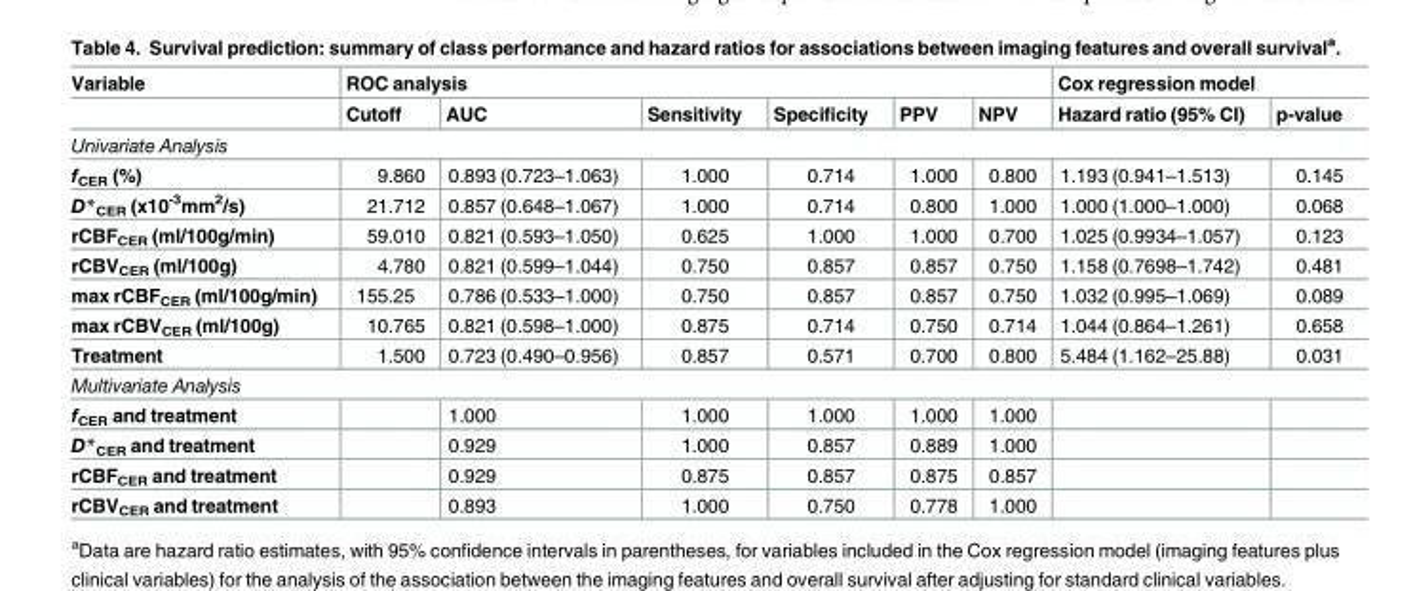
<table><thead><tr><td rowspan="2">Variable</td><td colspan="6">ROC analysis</td><td colspan="2">Cox regression model</td></tr><tr><td>Cutoff</td><td>AUC</td><td>Sensitivity</td><td>Specificity</td><td>PPV</td><td>NPV</td><td>Hazard ratio (95% CI)</td><td>p-value</td></tr></thead><tbody><tr><td colspan="9">Univariate Analysis</td></tr><tr><td>f<sub>CER</sub> (%)</td><td>9.860</td><td>0.893 (0.723–1.063)</td><td>1.000</td><td>0.714</td><td>1.000</td><td>0.800</td><td>1.193 (0.941–1.513)</td><td>0.145</td></tr><tr><td>D*<sub>CER</sub> (x10<sup>-3</sup>mm<sup>2</sup>/s)</td><td>21.712</td><td>0.857 (0.648–1.067)</td><td>1.000</td><td>0.714</td><td>0.800</td><td>1.000</td><td>1.000 (1.000–1.000)</td><td>0.068</td></tr><tr><td>rCBF<sub>CER</sub> (ml/100g/min)</td><td>59.010</td><td>0.821 (0.593–1.050)</td><td>0.625</td><td>1.000</td><td>1.000</td><td>0.700</td><td>1.025 (0.9934–1.057)</td><td>0.123</td></tr><tr><td>rCBV<sub>CER</sub> (ml/100g)</td><td>4.780</td><td>0.821 (0.599–1.044)</td><td>0.750</td><td>0.857</td><td>0.857</td><td>0.750</td><td>1.158 (0.7698–1.742)</td><td>0.481</td></tr><tr><td>max rCBF<sub>CER</sub> (ml/100g/min)</td><td>155.25</td><td>0.786 (0.533–1.000)</td><td>0.750</td><td>0.857</td><td>0.857</td><td>0.750</td><td>1.032 (0.995–1.069)</td><td>0.089</td></tr><tr><td>max rCBV<sub>CER</sub> (ml/100g)</td><td>10.765</td><td>0.821 (0.598–1.000)</td><td>0.875</td><td>0.714</td><td>0.750</td><td>0.714</td><td>1.044 (0.864–1.261)</td><td>0.658</td></tr><tr><td>Treatment</td><td>1.500</td><td>0.723 (0.490–0.956)</td><td>0.857</td><td>0.571</td><td>0.700</td><td>0.800</td><td>5.484 (1.162–25.88)</td><td>0.031</td></tr><tr><td colspan="9">Multivariate Analysis</td></tr><tr><td>f<sub>CER</sub> and treatment</td><td></td><td>1.000</td><td>1.000</td><td>1.000</td><td>1.000</td><td>1.000</td><td></td><td></td></tr><tr><td>D*<sub>CER</sub> and treatment</td><td></td><td>0.929</td><td>1.000</td><td>0.857</td><td>0.889</td><td>1.000</td><td></td><td></td></tr><tr><td>rCBF<sub>CER</sub> and treatment</td><td></td><td>0.929</td><td>0.875</td><td>0.857</td><td>0.875</td><td>0.857</td><td></td><td></td></tr><tr><td>rCBV<sub>CER</sub> and treatment</td><td></td><td>0.893</td><td>1.000</td><td>0.750</td><td>0.778</td><td>1.000</td><td></td><td></td></tr></tbody></table>